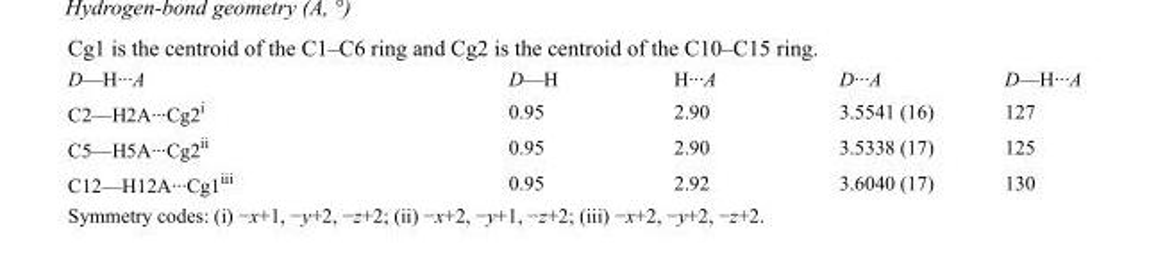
<table><tbody><tr><td>D—H···A</td><td>D—H</td><td>H···A</td><td>D···A</td><td>D—H···A</td></tr><tr><td>C2—H2A···Cg2<sup>i</sup></td><td>0.95</td><td>2.90</td><td>3.5541 (16)</td><td>127</td></tr><tr><td>C5—H5A···Cg2<sup>ii</sup></td><td>0.95</td><td>2.90</td><td>3.5338 (17)</td><td>125</td></tr><tr><td>C12—H12A···Cg1<sup>iii</sup></td><td>0.95</td><td>2.92</td><td>3.6040 (17)</td><td>130</td></tr></tbody></table>